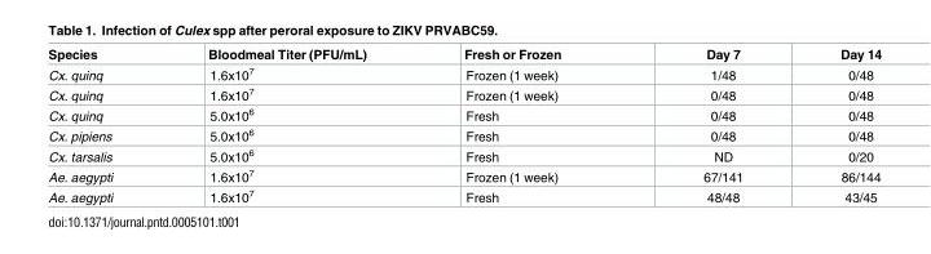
<table><thead><tr><td>Species</td><td>Bloodmeal Titer (PFU/mL)</td><td>Fresh or Frozen</td><td>Day 7</td><td>Day 14</td></tr></thead><tbody><tr><td>Cx. quinq</td><td>1.6x10<sup>7</sup></td><td>Frozen (1 week)</td><td>1/48</td><td>0/48</td></tr><tr><td>Cx. quinq</td><td>1.6x10<sup>7</sup></td><td>Frozen (1 week)</td><td>0/48</td><td>0/48</td></tr><tr><td>Cx. quinq</td><td>5.0x10<sup>6</sup></td><td>Fresh</td><td>0/48</td><td>0/48</td></tr><tr><td>Cx. pipiens</td><td>5.0x10<sup>6</sup></td><td>Fresh</td><td>0/48</td><td>0/48</td></tr><tr><td>Cx. tarsalis</td><td>5.0x10<sup>6</sup></td><td>Fresh</td><td>ND</td><td>0/20</td></tr><tr><td>Ae. aegypti</td><td>1.6x10<sup>7</sup></td><td>Frozen (1 week)</td><td>67/141</td><td>86/144</td></tr><tr><td>Ae. aegypti</td><td>1.6x10<sup>7</sup></td><td>Fresh</td><td>48/48</td><td>43/45</td></tr></tbody></table>